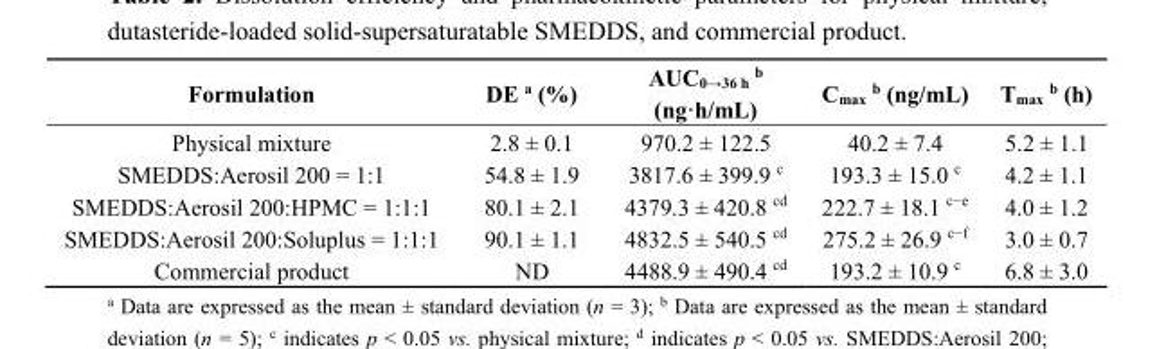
<table><thead><tr><td>Formulation</td><td>DE <sup>a</sup> (%)</td><td>AUC<sub>0→36 h</sub> <sup>b</sup> (ng·h/mL)</td><td>C<sub>max</sub> <sup>b</sup> (ng/mL)</td><td>T<sub>max</sub> <sup>b</sup> (h)</td></tr></thead><tbody><tr><td>Physical mixture</td><td>2.8 ± 0.1</td><td>970.2 ± 122.5</td><td>40.2 ± 7.4</td><td>5.2 ± 1.1</td></tr><tr><td>SMEDDS:Aerosil 200 = 1:1</td><td>54.8 ± 1.9</td><td>3817.6 ± 399.9 <sup>c</sup></td><td>193.3 ± 15.0 <sup>c</sup></td><td>4.2 ± 1.1</td></tr><tr><td>SMEDDS:Aerosil 200:HPMC = 1:1:1</td><td>80.1 ± 2.1</td><td>4379.3 ± 420.8 <sup>cd</sup></td><td>222.7 ± 18.1 <sup>c−e</sup></td><td>4.0 ± 1.2</td></tr><tr><td>SMEDDS:Aerosil 200:Soluplus = 1:1:1</td><td>90.1 ± 1.1</td><td>4832.5 ± 540.5 <sup>cd</sup></td><td>275.2 ± 26.9 <sup>c−f</sup></td><td>3.0 ± 0.7</td></tr><tr><td>Commercial product</td><td>ND</td><td>4488.9 ± 490.4 <sup>cd</sup></td><td>193.2 ± 10.9 <sup>c</sup></td><td>6.8 ± 3.0</td></tr></tbody></table>